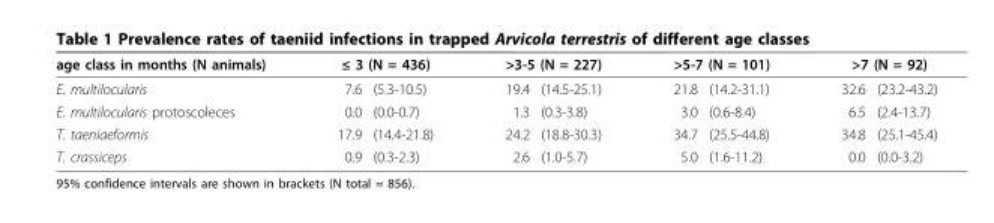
<table><thead><tr><td rowspan="2">age class in months (N animals) E. multilocularis</td><td colspan="2">≤ 3 (N = 436)</td><td colspan="2">&gt;3-5 (N = 227)</td><td colspan="2">&gt;5-7 (N = 101)</td><td colspan="2">&gt;7 (N = 92)</td></tr><tr><td>7.6</td><td>(5.3-10.5)</td><td>19.4</td><td>(14.5-25.1)</td><td>21.8</td><td>(14.2-31.1)</td><td>32.6</td><td>(23.2-43.2)</td></tr></thead><tbody><tr><td>E. multilocularis protoscoleces</td><td>0.0</td><td>(0.0-0.7)</td><td>1.3</td><td>(0.3-3.8)</td><td>3.0</td><td>(0.6-8.4)</td><td>6.5</td><td>(2.4-13.7)</td></tr><tr><td>T. taeniaeformis</td><td>17.9</td><td>(14.4-21.8)</td><td>24.2</td><td>(18.8-30.3)</td><td>34.7</td><td>(25.5-44.8)</td><td>34.8</td><td>(25.1-45.4)</td></tr><tr><td>T. crassiceps</td><td>0.9</td><td>(0.3-2.3)</td><td>2.6</td><td>(1.0-5.7)</td><td>5.0</td><td>(1.6-11.2)</td><td>0.0</td><td>(0.0-3.2)</td></tr></tbody></table>